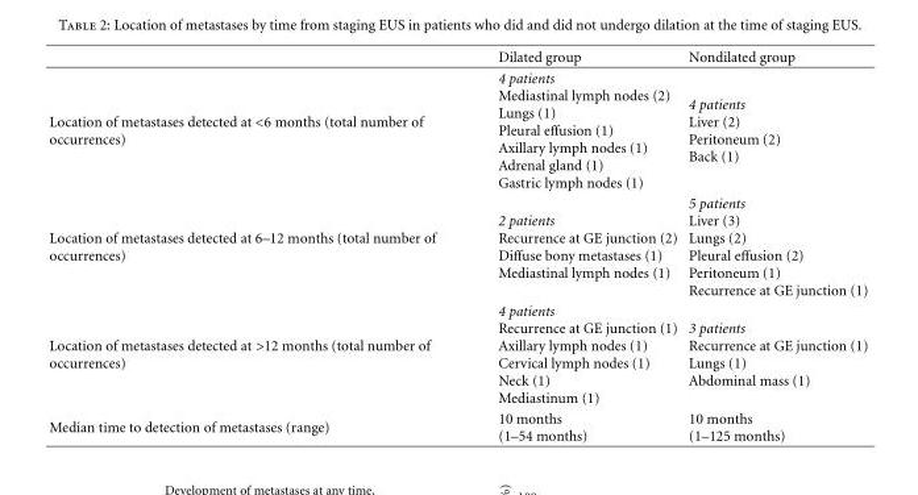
<table><thead><tr><td></td><td>Dilated group</td><td>Nondilated group</td></tr></thead><tbody><tr><td>Location of metastases detected at &lt;6 months (total number of occurrences)</td><td>4 patients Mediastinal lymph nodes (2) Lungs (1) Pleural effusion (1) Axillary lymph nodes (1) Adrenal gland (1) Gastric lymph nodes (1)</td><td>4 patients Liver (2) Peritoneum (2) Back (1)</td></tr><tr><td>Location of metastases detected at 6–12 months (total number of occurrences)</td><td>2 patients Recurrence at GE junction (2) Diffuse bony metastases (1) Mediastinal lymph nodes (1)</td><td>5 patients Liver (3) Lungs (2) Pleural effusion (2) Peritoneum (1) Recurrence at GE junction (1)</td></tr><tr><td>Location of metastases detected at &gt;12 months (total number of occurrences)</td><td>4 patients Recurrence at GE junction (1) Axillary lymph nodes (1) Cervical lymph nodes (1) Neck (1) Mediastinum (1)</td><td>3 patients Recurrence at GE junction (1) Lungs (1) Abdominal mass (1)</td></tr><tr><td>Median time to detection of metastases (range)</td><td>10 months (1–54 months)</td><td>10 months (1–125 months)</td></tr></tbody></table>